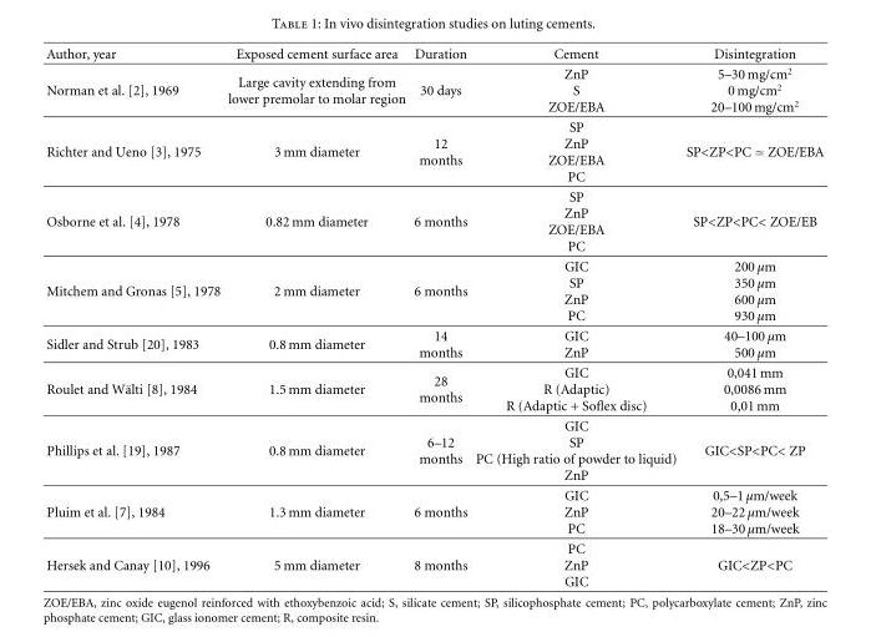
<table><thead><tr><td>Author, year</td><td>Exposed cement surface area</td><td>Duration</td><td>Cement</td><td>Disintegration</td></tr></thead><tbody><tr><td>Norman et al. [2], 1969</td><td>Large cavity extending from lower premolar to molar region</td><td>30 days</td><td>ZnP S ZOE/EBA</td><td>5–30 mg/cm<sup>2</sup> 0 mg/cm<sup>2</sup> 20–100 mg/cm<sup>2</sup></td></tr><tr><td>Richter and Ueno [3], 1975</td><td>3 mm diameter</td><td>12 months</td><td>SP ZnP ZOE/EBA PC</td><td>SP&lt;ZP&lt;PC ≃ ZOE/EBA</td></tr><tr><td>Osborne et al. [4], 1978</td><td>0.82 mm diameter</td><td>6 months</td><td>SP ZnP ZOE/EBA PC</td><td>SP&lt;ZP&lt;PC&lt; ZOE/EB</td></tr><tr><td>Mitchem and Gronas [5], 1978</td><td>2 mm diameter</td><td>6 months</td><td>GIC SP ZnP PC</td><td>200 µm 350 µm 600 µm 930 µm</td></tr><tr><td>Sidler and Strub [20], 1983</td><td>0.8 mm diameter</td><td>14 months</td><td>GIC ZnP</td><td>40–100 µm 500 µm</td></tr><tr><td>Roulet and W¨alti [8], 1984</td><td>1.5 mm diameter</td><td>28 months</td><td>GIC R (Adaptic) R (Adaptic + Soflex disc)</td><td>0,041 mm 0,0086 mm 0,01 mm</td></tr><tr><td>Phillips et al. [19], 1987</td><td>0.8 mm diameter</td><td>6–12 months</td><td>GIC SP PC (High ratio of powder to liquid) ZnP</td><td>GIC&lt;SP&lt;PC&lt; ZP</td></tr><tr><td>Pluim et al. [7], 1984</td><td>1.3 mm diameter</td><td>6 months</td><td>GIC ZnP PC</td><td>0,5–1 µm/week 20–22 µm/week 18–30 µm/week</td></tr><tr><td>Hersek and Canay [10], 1996</td><td>5 mm diameter</td><td>8 months</td><td>PC ZnP GIC</td><td>GIC&lt;ZP&lt;PC</td></tr></tbody></table>